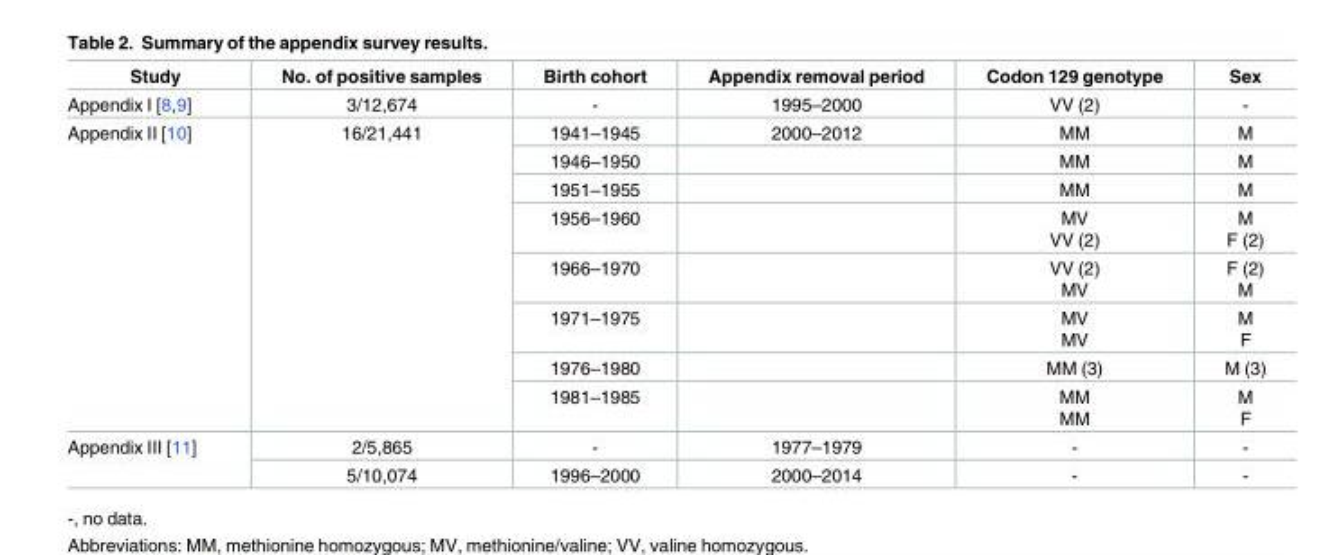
<table><thead><tr><td>Study</td><td>No. of positive samples</td><td>Birth cohort</td><td>Appendix removal period</td><td>Codon 129 genotype</td><td>Sex</td></tr></thead><tbody><tr><td>Appendix I [8,9]</td><td>3/12,674</td><td>-</td><td>1995–2000</td><td>VV (2)</td><td>-</td></tr><tr><td rowspan="8">Appendix II [10]</td><td rowspan="8">16/21,441</td><td>1941–1945</td><td>2000–2012</td><td>MM</td><td>M</td></tr><tr><td>1946–1950</td><td></td><td>MM</td><td>M</td></tr><tr><td>1951–1955</td><td></td><td>MM</td><td>M</td></tr><tr><td>1956–1960</td><td></td><td>MV VV (2)</td><td>M F (2)</td></tr><tr><td>1966–1970</td><td></td><td>VV (2) MV</td><td>F (2) M</td></tr><tr><td>1971–1975</td><td></td><td>MV MV</td><td>M F</td></tr><tr><td>1976–1980</td><td></td><td>MM (3)</td><td>M (3)</td></tr><tr><td>1981–1985</td><td></td><td>MM MM</td><td>M F</td></tr><tr><td rowspan="2">Appendix III [11]</td><td>2/5,865</td><td>-</td><td>1977–1979</td><td>-</td><td>-</td></tr><tr><td>5/10,074</td><td>1996–2000</td><td>2000–2014</td><td>-</td><td>-</td></tr></tbody></table>